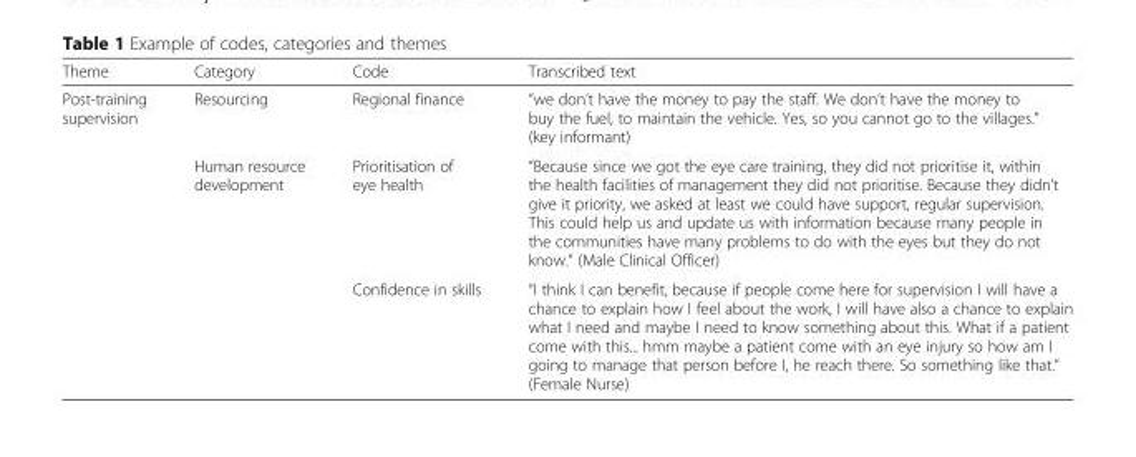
<table><thead><tr><td>Theme</td><td>Category</td><td>Code</td><td>Transcribed text</td></tr></thead><tbody><tr><td rowspan="3">Post-training supervision</td><td>Resourcing</td><td>Regional finance</td><td>“we don’t have the money to pay the staff. We don’t have the money to buy the fuel, to maintain the vehicle. Yes, so you cannot go to the villages.” (key informant)</td></tr><tr><td rowspan="2">Human resource development</td><td>Prioritisation of eye health</td><td>“Because since we got the eye care training, they did not prioritise it, within the health facilities of management they did not prioritise. Because they didn’t give it priority, we asked at least we could have support, regular supervision. This could help us and update us with information because many people in the communities have many problems to do with the eyes but they do not know.” (Male Clinical Officer)</td></tr><tr><td>Confidence in skills</td><td>“I think I can benefit, because if people come here for supervision I will have a chance to explain how I feel about the work, I will have also a chance to explain what I need and maybe I need to know something about this. What if a patient come with this... hmm maybe a patient come with an eye injury so how am I going to manage that person before I, he reach there. So something like that.” (Female Nurse)</td></tr></tbody></table>